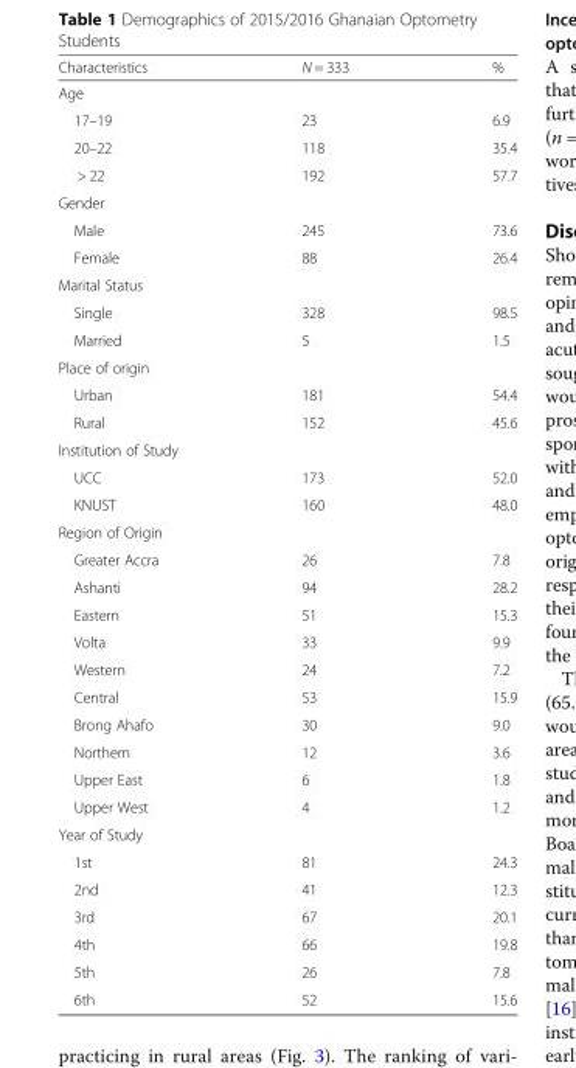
<table><thead><tr><td>Characteristics</td><td>N = 333</td><td>%</td></tr></thead><tbody><tr><td colspan="3">Age</td></tr><tr><td>17–19</td><td>23</td><td>6.9</td></tr><tr><td>20–22</td><td>118</td><td>35.4</td></tr><tr><td>&gt; 22</td><td>192</td><td>57.7</td></tr><tr><td colspan="3">Gender</td></tr><tr><td>Male</td><td>245</td><td>73.6</td></tr><tr><td>Female</td><td>88</td><td>26.4</td></tr><tr><td colspan="3">Marital Status</td></tr><tr><td>Single</td><td>328</td><td>98.5</td></tr><tr><td>Married</td><td>5</td><td>1.5</td></tr><tr><td colspan="3">Place of origin</td></tr><tr><td>Urban</td><td>181</td><td>54.4</td></tr><tr><td>Rural</td><td>152</td><td>45.6</td></tr><tr><td colspan="3">Institution of Study</td></tr><tr><td>UCC</td><td>173</td><td>52.0</td></tr><tr><td>KNUST</td><td>160</td><td>48.0</td></tr><tr><td colspan="3">Region of Origin</td></tr><tr><td>Greater Accra</td><td>26</td><td>7.8</td></tr><tr><td>Ashanti</td><td>94</td><td>28.2</td></tr><tr><td>Eastern</td><td>51</td><td>15.3</td></tr><tr><td>Volta</td><td>33</td><td>9.9</td></tr><tr><td>Western</td><td>24</td><td>7.2</td></tr><tr><td>Central</td><td>53</td><td>15.9</td></tr><tr><td>Brong Ahafo</td><td>30</td><td>9.0</td></tr><tr><td>Northern</td><td>12</td><td>3.6</td></tr><tr><td>Upper East</td><td>6</td><td>1.8</td></tr><tr><td>Upper West</td><td>4</td><td>1.2</td></tr><tr><td colspan="3">Year of Study</td></tr><tr><td>1st</td><td>81</td><td>24.3</td></tr><tr><td>2nd</td><td>41</td><td>12.3</td></tr><tr><td>3rd</td><td>67</td><td>20.1</td></tr><tr><td>4th</td><td>66</td><td>19.8</td></tr><tr><td>5th</td><td>26</td><td>7.8</td></tr><tr><td>6th</td><td>52</td><td>15.6</td></tr></tbody></table>